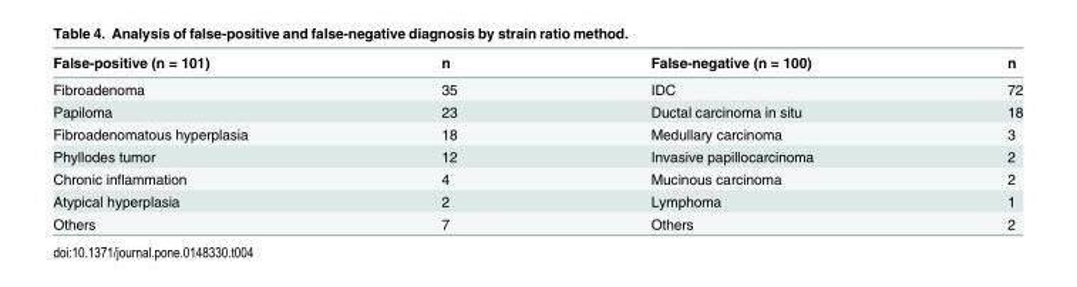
<table><thead><tr><td>False-positive (n = 101)</td><td>n</td><td>False-negative (n = 100)</td><td>n</td></tr></thead><tbody><tr><td>Fibroadenoma</td><td>35</td><td>IDC</td><td>72</td></tr><tr><td>Papiloma</td><td>23</td><td>Ductal carcinoma in situ</td><td>18</td></tr><tr><td>Fibroadenomatous hyperplasia</td><td>18</td><td>Medullary carcinoma</td><td>3</td></tr><tr><td>Phyllodes tumor</td><td>12</td><td>Invasive papillocarcinoma</td><td>2</td></tr><tr><td>Chronic inflammation</td><td>4</td><td>Mucinous carcinoma</td><td>2</td></tr><tr><td>Atypical hyperplasia</td><td>2</td><td>Lymphoma</td><td>1</td></tr><tr><td>Others</td><td>7</td><td>Others</td><td>2</td></tr></tbody></table>